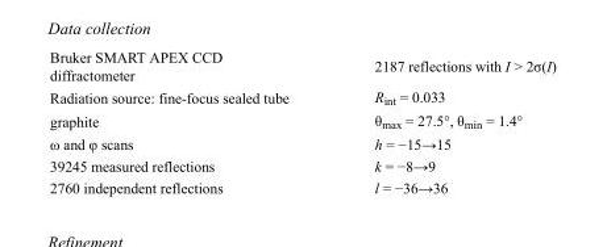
<table><tbody><tr><td>Bruker SMART APEX CCD diffractometer</td><td>2187 reflections with I &gt; 2σ(I)</td></tr><tr><td>Radiation source: fine-focus sealed tube</td><td>R<sub>int</sub> = 0.033</td></tr><tr><td>graphite</td><td>θ<sub>max</sub> = 27.5°, θ<sub>min</sub> = 1.4°</td></tr><tr><td>ω and φ scans</td><td>h = −15→15</td></tr><tr><td>39245 measured reflections</td><td>k = −8→9</td></tr><tr><td>2760 independent reflections</td><td>l = −36→36</td></tr></tbody></table>